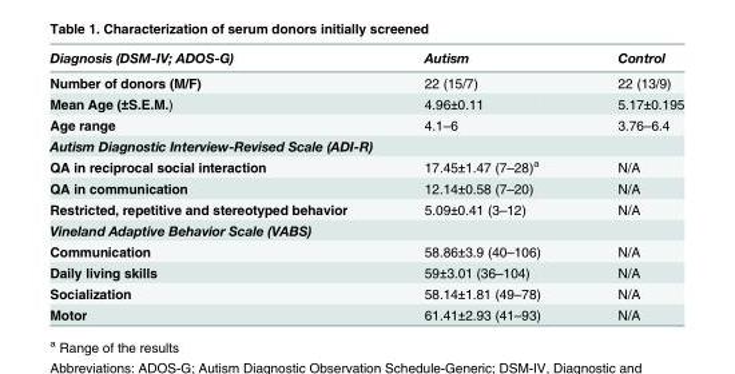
<table><thead><tr><td>Diagnosis (DSM-IV; ADOS-G)</td><td>Autism</td><td>Control</td></tr></thead><tbody><tr><td>Number of donors (M/F)</td><td>22 (15/7)</td><td>22 (13/9)</td></tr><tr><td>Mean Age (±S.E.M.)</td><td>4.96±0.11</td><td>5.17±0.195</td></tr><tr><td>Age range</td><td>4.1–6</td><td>3.76–6.4</td></tr><tr><td colspan="3">Autism Diagnostic Interview-Revised Scale (ADI-R)</td></tr><tr><td>QA in reciprocal social interaction</td><td>17.45±1.47 (7–28)<sup>a</sup></td><td>N/A</td></tr><tr><td>QA in communication</td><td>12.14±0.58 (7–20)</td><td>N/A</td></tr><tr><td>Restricted, repetitive and stereotyped behavior</td><td>5.09±0.41 (3–12)</td><td>N/A</td></tr><tr><td colspan="3">Vineland Adaptive Behavior Scale (VABS)</td></tr><tr><td>Communication</td><td>58.86±3.9 (40–106)</td><td>N/A</td></tr><tr><td>Daily living skills</td><td>59±3.01 (36–104)</td><td>N/A</td></tr><tr><td>Socialization</td><td>58.14±1.81 (49–78)</td><td>N/A</td></tr><tr><td>Motor</td><td>61.41±2.93 (41–93)</td><td>N/A</td></tr></tbody></table>